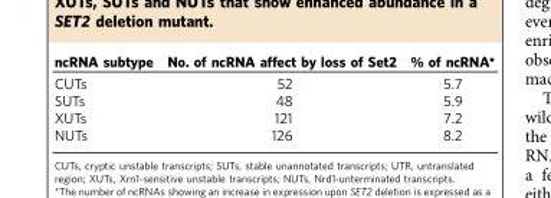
<table><thead><tr><td>ncRNA subtype</td><td>No. of ncRNA affect by loss of Set2</td><td>% of ncRNA*</td></tr></thead><tbody><tr><td>CUTs</td><td>52</td><td>5.7</td></tr><tr><td>SUTs</td><td>48</td><td>5.9</td></tr><tr><td>XUTs</td><td>121</td><td>7.2</td></tr><tr><td>NUTs</td><td>126</td><td>8.2</td></tr></tbody></table>